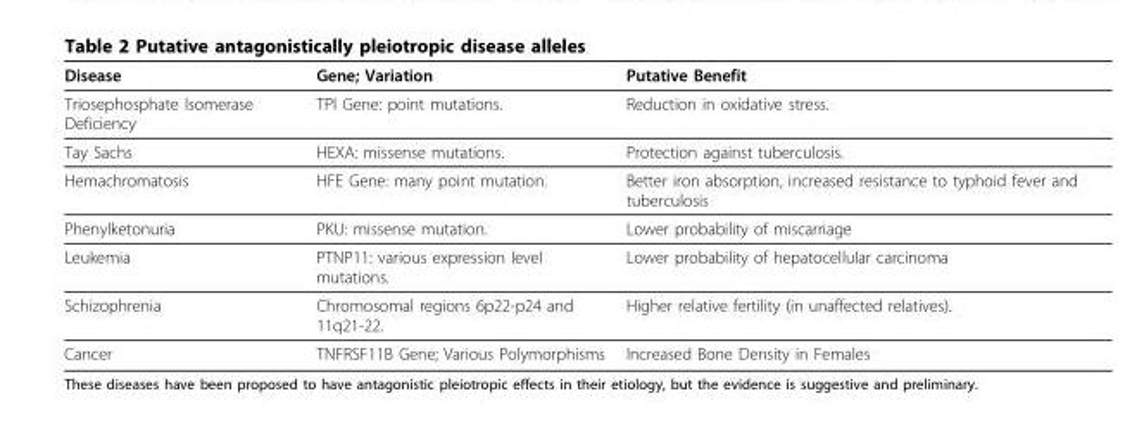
<table><thead><tr><td>Disease</td><td>Gene; Variation</td><td>Putative Benefit</td></tr></thead><tbody><tr><td>Triosephosphate Isomerase Deficiency</td><td>TPI Gene: point mutations.</td><td>Reduction in oxidative stress.</td></tr><tr><td>Tay Sachs</td><td>HEXA: missense mutations.</td><td>Protection against tuberculosis.</td></tr><tr><td>Hemachromatosis</td><td>HFE Gene: many point mutation.</td><td>Better iron absorption, increased resistance to typhoid fever and tuberculosis</td></tr><tr><td>Phenylketonuria</td><td>PKU: missense mutation.</td><td>Lower probability of miscarriage</td></tr><tr><td>Leukemia</td><td>PTNP11: various expression level mutations.</td><td>Lower probability of hepatocellular carcinoma</td></tr><tr><td>Schizophrenia</td><td>Chromosomal regions 6p22-p24 and 11q21-22.</td><td>Higher relative fertility (in unaffected relatives).</td></tr><tr><td>Cancer</td><td>TNFRSF11B Gene; Various Polymorphisms</td><td>Increased Bone Density in Females</td></tr></tbody></table>